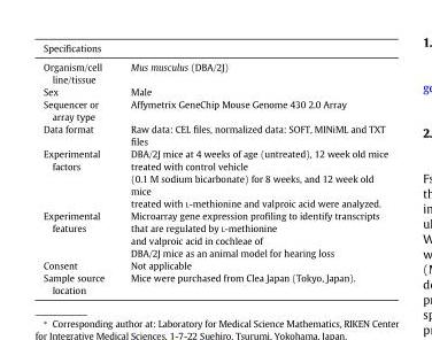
<table><thead><tr><td colspan="2">Specifications</td></tr><tr><td>Organism/cell line/tissue</td><td>Mus musculus (DBA/2J)</td></tr></thead><tbody><tr><td>Sex</td><td>Male</td></tr><tr><td>Sequencer or array type</td><td>Affymetrix GeneChip Mouse Genome 430 2.0 Array</td></tr><tr><td>Data format</td><td>Raw data: CEL files, normalized data: SOFT, MINiML and TXT files</td></tr><tr><td>Experimental factors</td><td>DBA/2J mice at 4 weeks of age (untreated), 12 week old mice treated with control vehicle (0.1 M sodium bicarbonate) for 8 weeks, and 12 week old mice treated with L-methionine and valproic acid were analyzed.</td></tr><tr><td>Experimental features</td><td>Microarray gene expression profiling to identify transcripts that are regulated by L-methionine and valproic acid in cochleae of DBA/2J mice as an animal model for hearing loss</td></tr><tr><td>Consent</td><td>Not applicable</td></tr><tr><td>Sample source location</td><td>Mice were purchased from Clea Japan (Tokyo, Japan).</td></tr></tbody></table>